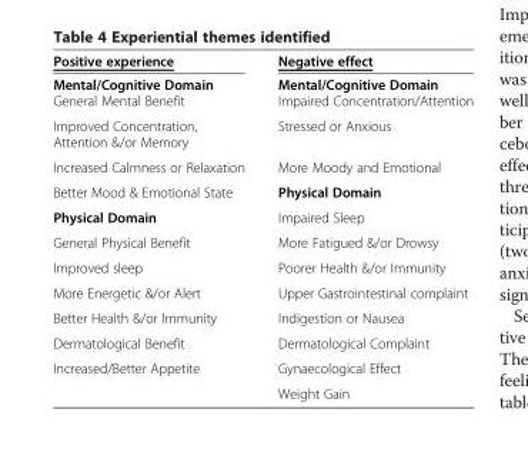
<table><thead><tr><td rowspan="2">Positive experience Mental/Cognitive Domain</td><td rowspan="2">Negative effect Mental/Cognitive Domain</td></tr><tr></tr></thead><tbody><tr><td>General Mental Benefit</td><td>Impaired Concentration/Attention</td></tr><tr><td>Improved Concentration, Attention &amp;/or Memory</td><td>Stressed or Anxious</td></tr><tr><td>Increased Calmness or Relaxation</td><td>More Moody and Emotional</td></tr><tr><td>Better Mood &amp; Emotional State</td><td>Physical Domain</td></tr><tr><td>Physical Domain</td><td>Impaired Sleep</td></tr><tr><td>General Physical Benefit</td><td>More Fatigued &amp;/or Drowsy</td></tr><tr><td>Improved sleep</td><td>Poorer Health &amp;/or Immunity</td></tr><tr><td>More Energetic &amp;/or Alert</td><td>Upper Gastrointestinal complaint</td></tr><tr><td>Better Health &amp;/or Immunity</td><td>Indigestion or Nausea</td></tr><tr><td>Dermatological Benefit</td><td>Dermatological Complaint</td></tr><tr><td rowspan="2">Increased/Better Appetite</td><td>Gynaecological Effect</td></tr><tr><td>Weight Gain</td></tr></tbody></table>